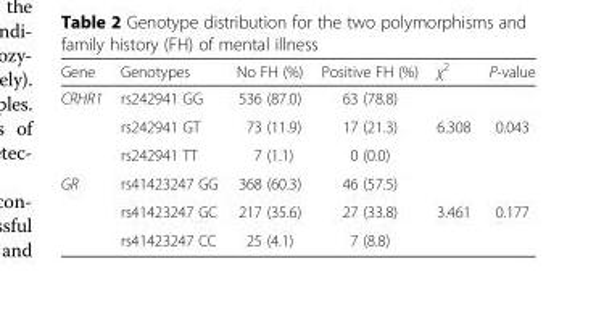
<table><thead><tr><td>Gene</td><td>Genotypes</td><td>No FH (%)</td><td>Positive FH (%)</td><td>χ<sup>2</sup></td><td>P-value</td></tr></thead><tbody><tr><td rowspan="3">CRHR1</td><td>rs242941 GG</td><td>536 (87.0)</td><td>63 (78.8)</td><td></td><td></td></tr><tr><td>rs242941 GT</td><td>73 (11.9)</td><td>17 (21.3)</td><td>6.308</td><td>0.043</td></tr><tr><td>rs242941 TT</td><td>7 (1.1)</td><td>0 (0.0)</td><td></td><td></td></tr><tr><td rowspan="3">GR</td><td>rs41423247 GG</td><td>368 (60.3)</td><td>46 (57.5)</td><td></td><td></td></tr><tr><td>rs41423247 GC</td><td>217 (35.6)</td><td>27 (33.8)</td><td>3.461</td><td>0.177</td></tr><tr><td>rs41423247 CC</td><td>25 (4.1)</td><td>7 (8.8)</td><td></td><td></td></tr></tbody></table>